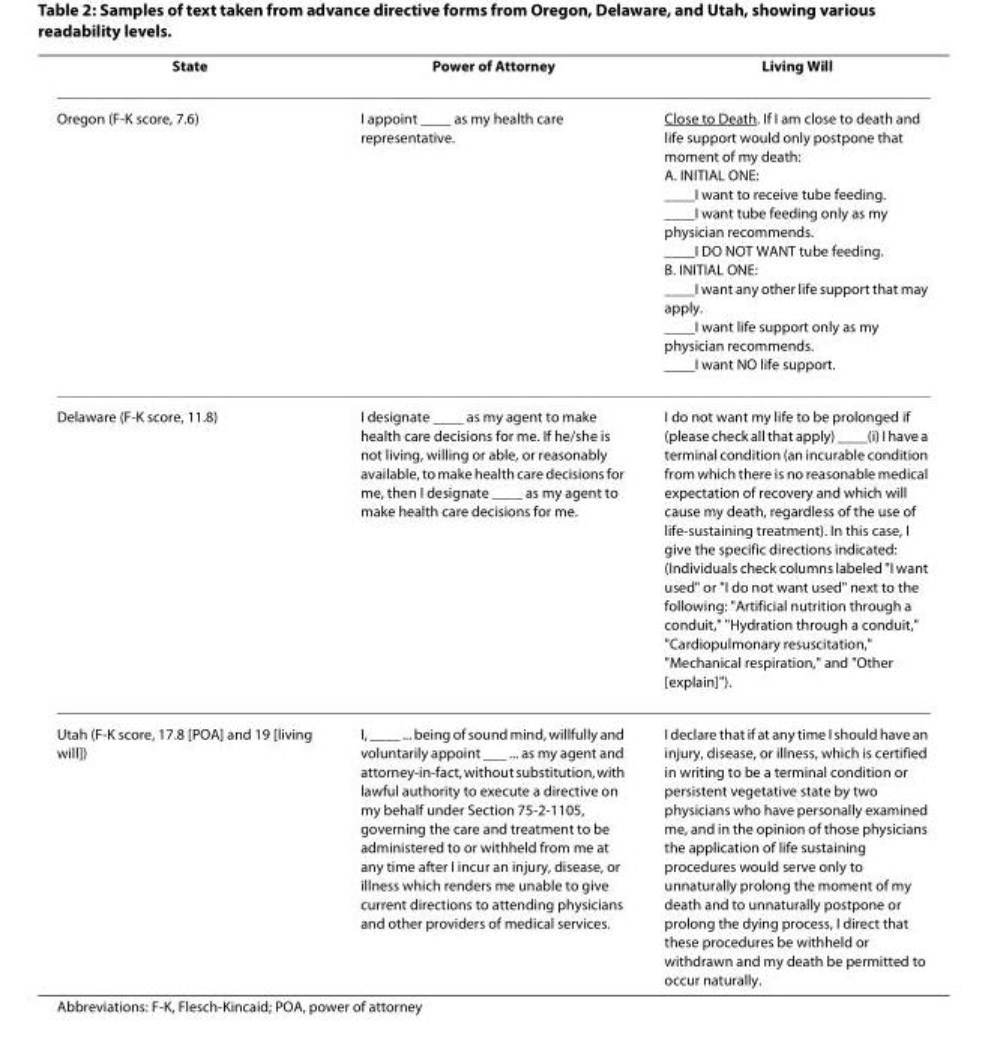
<table><thead><tr><td>State</td><td>Power of Attorney</td><td>Living Will</td></tr></thead><tbody><tr><td>Oregon (F-K score, 7.6)</td><td>I appoint ____ as my health care representative.</td><td>Close to Death. If I am close to death and life support would only postpone that moment of my death: A. INITIAL ONE: ____I want to receive tube feeding. ____I want tube feeding only as my physician recommends. ____I DO NOT WANT tube feeding. B. INITIAL ONE: ____I want any other life support that may apply. ____I want life support only as my physician recommends. ____I want NO life support.</td></tr><tr><td>Delaware (F-K score, 11.8)</td><td>I designate ____ as my agent to make health care decisions for me. If he/she is not living, willing or able, or reasonably available, to make health care decisions for me, then I designate ____ as my agent to make health care decisions for me.</td><td>I do not want my life to be prolonged if (please check all that apply) ____(i) I have a terminal condition (an incurable condition from which there is no reasonable medical expectation of recovery and which will cause my death, regardless of the use of life-sustaining treatment). In this case, I give the specific directions indicated: (Individuals check columns labeled &quot;I want used&quot; or &quot;I do not want used&quot; next to the following: &quot;Artificial nutrition through a conduit,&quot; &quot;Hydration through a conduit,&quot; &quot;Cardiopulmonary resuscitation,&quot; &quot;Mechanical respiration,&quot; and &quot;Other [explain]&quot;).</td></tr><tr><td>Utah (F-K score, 17.8 [POA] and 19 [living will])</td><td>I, ____ ... being of sound mind, willfully and voluntarily appoint ___ ... as my agent and attorney-in-fact, without substitution, with lawful authority to execute a directive on my behalf under Section 75-2-1105, governing the care and treatment to be administered to or withheld from me at any time after I incur an injury, disease, or illness which renders me unable to give current directions to attending physicians and other providers of medical services.</td><td>I declare that if at any time I should have an injury, disease, or illness, which is certified in writing to be a terminal condition or persistent vegetative state by two physicians who have personally examined me, and in the opinion of those physicians the application of life sustaining procedures would serve only to unnaturally prolong the moment of my death and to unnaturally postpone or prolong the dying process, I direct that these procedures be withheld or withdrawn and my death be permitted to occur naturally.</td></tr></tbody></table>